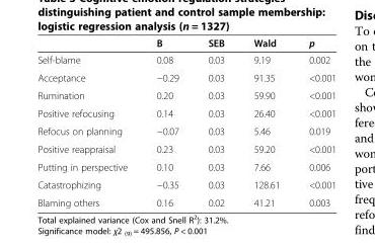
<table><thead><tr><td></td><td>B</td><td>SEB</td><td>Wald</td><td>p</td></tr></thead><tbody><tr><td>Self-blame</td><td>0.08</td><td>0.03</td><td>9.19</td><td>0.002</td></tr><tr><td>Acceptance</td><td>−0.29</td><td>0.03</td><td>91.35</td><td>&lt;0.001</td></tr><tr><td>Rumination</td><td>0.20</td><td>0.03</td><td>59.90</td><td>&lt;0.001</td></tr><tr><td>Positive refocusing</td><td>0.14</td><td>0.03</td><td>26.40</td><td>&lt;0.001</td></tr><tr><td>Refocus on planning</td><td>−0.07</td><td>0.03</td><td>5.46</td><td>0.019</td></tr><tr><td>Positive reappraisal</td><td>0.23</td><td>0.03</td><td>59.20</td><td>&lt;0.001</td></tr><tr><td>Putting in perspective</td><td>0.10</td><td>0.03</td><td>7.66</td><td>0.006</td></tr><tr><td>Catastrophizing</td><td>−0.35</td><td>0.03</td><td>128.61</td><td>&lt;0.001</td></tr><tr><td>Blaming others</td><td>0.16</td><td>0.02</td><td>41.21</td><td>0.003</td></tr></tbody></table>